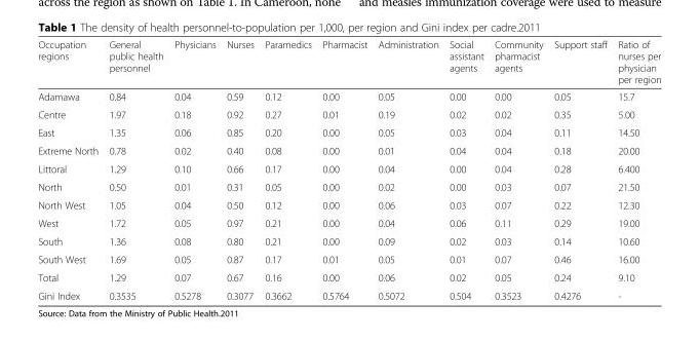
<table><thead><tr><td>Occupation regions</td><td>General public health personnel</td><td>Physicians</td><td>Nurses</td><td>Paramedics</td><td>Pharmacist</td><td>Administration</td><td>Social assistant agents</td><td>Community pharmacist agents</td><td>Support staff</td><td>Ratio of nurses per physician per region</td></tr></thead><tbody><tr><td>Adamawa</td><td>0.84</td><td>0.04</td><td>0.59</td><td>0.12</td><td>0.00</td><td>0.05</td><td>0.00</td><td>0.00</td><td>0.05</td><td>15.7</td></tr><tr><td>Centre</td><td>1.97</td><td>0.18</td><td>0.92</td><td>0.27</td><td>0.01</td><td>0.19</td><td>0.02</td><td>0.02</td><td>0.35</td><td>5.00</td></tr><tr><td>East</td><td>1.35</td><td>0.06</td><td>0.85</td><td>0.20</td><td>0.00</td><td>0.05</td><td>0.03</td><td>0.04</td><td>0.11</td><td>14.50</td></tr><tr><td>Extreme North</td><td>0.78</td><td>0.02</td><td>0.40</td><td>0.08</td><td>0.00</td><td>0.01</td><td>0.04</td><td>0.04</td><td>0.18</td><td>20.00</td></tr><tr><td>Littoral</td><td>1.29</td><td>0.10</td><td>0.66</td><td>0.17</td><td>0.00</td><td>0.04</td><td>0.00</td><td>0.04</td><td>0.28</td><td>6.400</td></tr><tr><td>North</td><td>0.50</td><td>0.01</td><td>0.31</td><td>0.05</td><td>0.00</td><td>0.02</td><td>0.00</td><td>0.03</td><td>0.07</td><td>21.50</td></tr><tr><td>North West</td><td>1.05</td><td>0.04</td><td>0.50</td><td>0.12</td><td>0.00</td><td>0.06</td><td>0.03</td><td>0.07</td><td>0.22</td><td>12.30</td></tr><tr><td>West</td><td>1.72</td><td>0.05</td><td>0.97</td><td>0.21</td><td>0.00</td><td>0.04</td><td>0.06</td><td>0.11</td><td>0.29</td><td>19.00</td></tr><tr><td>South</td><td>1.36</td><td>0.08</td><td>0.80</td><td>0.21</td><td>0.00</td><td>0.09</td><td>0.02</td><td>0.03</td><td>0.14</td><td>10.60</td></tr><tr><td>South West</td><td>1.69</td><td>0.05</td><td>0.87</td><td>0.17</td><td>0.01</td><td>0.05</td><td>0.01</td><td>0.07</td><td>0.46</td><td>16.00</td></tr><tr><td>Total</td><td>1.29</td><td>0.07</td><td>0.67</td><td>0.16</td><td>0.00</td><td>0.06</td><td>0.02</td><td>0.05</td><td>0.24</td><td>9.10</td></tr><tr><td>Gini Index</td><td>0.3535</td><td>0.5278</td><td>0.3077</td><td>0.3662</td><td>0.5764</td><td>0.5072</td><td>0.504</td><td>0.3523</td><td>0.4276</td><td>-</td></tr></tbody></table>